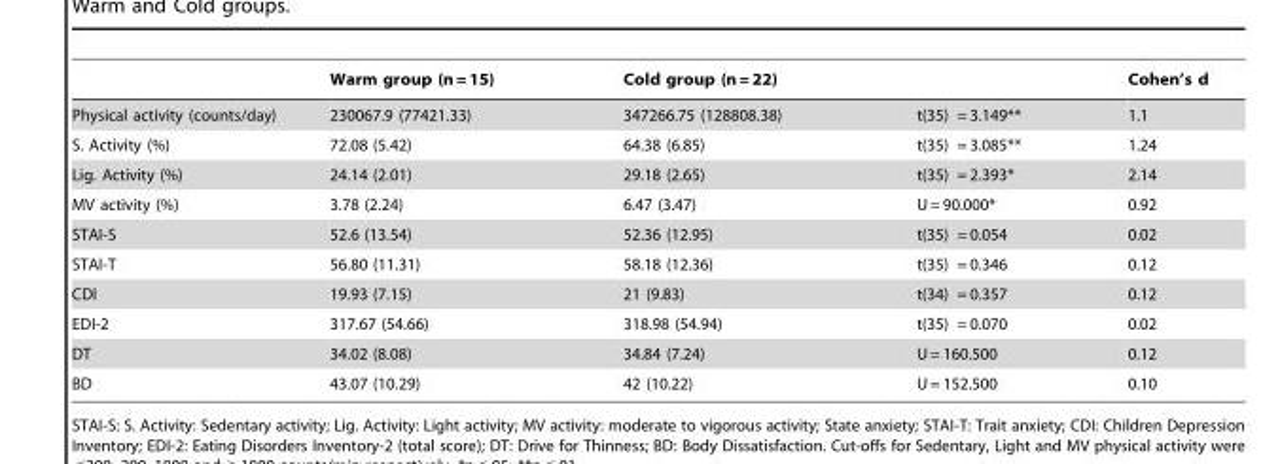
<table><thead><tr><td></td><td>Warm group (n = 15)</td><td>Cold group (n = 22)</td><td></td><td>Cohen’s d</td></tr></thead><tbody><tr><td>Physical activity (counts/day)</td><td>230067.9 (77421.33)</td><td>347266.75 (128808.38)</td><td>t(35) = 3.149**</td><td>1.1</td></tr><tr><td>S. Activity (%)</td><td>72.08 (5.42)</td><td>64.38 (6.85)</td><td>t(35) = 3.085**</td><td>1.24</td></tr><tr><td>Lig. Activity (%)</td><td>24.14 (2.01)</td><td>29.18 (2.65)</td><td>t(35) = 2.393*</td><td>2.14</td></tr><tr><td>MV activity (%)</td><td>3.78 (2.24)</td><td>6.47 (3.47)</td><td>U = 90.000*</td><td>0.92</td></tr><tr><td>STAI-S</td><td>52.6 (13.54)</td><td>52.36 (12.95)</td><td>t(35) = 0.054</td><td>0.02</td></tr><tr><td>STAI-T</td><td>56.80 (11.31)</td><td>58.18 (12.36)</td><td>t(35) = 0.346</td><td>0.12</td></tr><tr><td>CDI</td><td>19.93 (7.15)</td><td>21 (9.83)</td><td>t(34) = 0.357</td><td>0.12</td></tr><tr><td>EDI-2</td><td>317.67 (54.66)</td><td>318.98 (54.94)</td><td>t(35) = 0.070</td><td>0.02</td></tr><tr><td>DT</td><td>34.02 (8.08)</td><td>34.84 (7.24)</td><td>U = 160.500</td><td>0.12</td></tr><tr><td>BD</td><td>43.07 (10.29)</td><td>42 (10.22)</td><td>U = 152.500</td><td>0.10</td></tr></tbody></table>